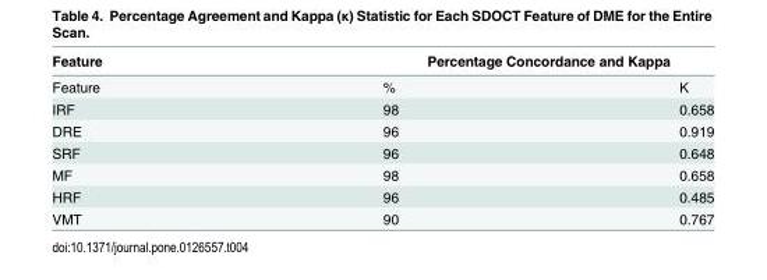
<table><thead><tr><td rowspan="2">Feature Feature</td><td colspan="2">Percentage Concordance and Kappa</td></tr><tr><td>%</td><td>Κ</td></tr></thead><tbody><tr><td>IRF</td><td>98</td><td>0.658</td></tr><tr><td>DRE</td><td>96</td><td>0.919</td></tr><tr><td>SRF</td><td>96</td><td>0.648</td></tr><tr><td>MF</td><td>98</td><td>0.658</td></tr><tr><td>HRF</td><td>96</td><td>0.485</td></tr><tr><td>VMT</td><td>90</td><td>0.767</td></tr></tbody></table>